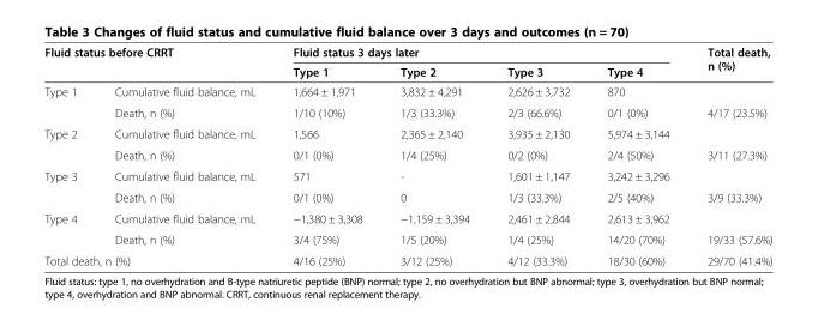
<table><thead><tr><td rowspan="2" colspan="2">Fluid status before CRRT</td><td colspan="4">Fluid status 3 days later</td><td rowspan="3">Total death, n (%)</td></tr><tr><td rowspan="2">Type 1 1,664 ± 1,971</td><td rowspan="2">Type 2 3,832 ± 4,291</td><td rowspan="2">Type 3 2,626 ± 3,732</td><td rowspan="2">Type 4 870</td></tr><tr><td>Type 1</td><td>Cumulative fluid balance, mL</td></tr></thead><tbody><tr><td></td><td>Death, n (%)</td><td>1/10 (10%)</td><td>1/3 (33.3%)</td><td>2/3 (66.6%)</td><td>0/1 (0%)</td><td>4/17 (23.5%)</td></tr><tr><td rowspan="2">Type 2</td><td>Cumulative fluid balance, mL</td><td>1,566</td><td>2,365 ± 2,140</td><td>3,935 ± 2,130</td><td>5,974 ± 3,144</td><td></td></tr><tr><td>Death, n (%)</td><td>0/1 (0%)</td><td>1/4 (25%)</td><td>0/2 (0%)</td><td>2/4 (50%)</td><td>3/11 (27.3%)</td></tr><tr><td rowspan="2">Type 3</td><td>Cumulative fluid balance, mL</td><td>571</td><td>-</td><td>1,601 ± 1,147</td><td>3,242 ± 3,296</td><td></td></tr><tr><td>Death, n (%)</td><td>0/1 (0%)</td><td>0</td><td>1/3 (33.3%)</td><td>2/5 (40%)</td><td>3/9 (33.3%)</td></tr><tr><td rowspan="2">Type 4</td><td>Cumulative fluid balance, mL</td><td>−1,380 ± 3,308</td><td>−1,159 ± 3,394</td><td>2,461 ± 2,844</td><td>2,613 ± 3,962</td><td></td></tr><tr><td>Death, n (%)</td><td>3/4 (75%)</td><td>1/5 (20%)</td><td>1/4 (25%)</td><td>14/20 (70%)</td><td>19/33 (57.6%)</td></tr><tr><td colspan="2">Total death, n (%)</td><td>4/16 (25%)</td><td>3/12 (25%)</td><td>4/12 (33.3%)</td><td>18/30 (60%)</td><td>29/70 (41.4%)</td></tr></tbody></table>